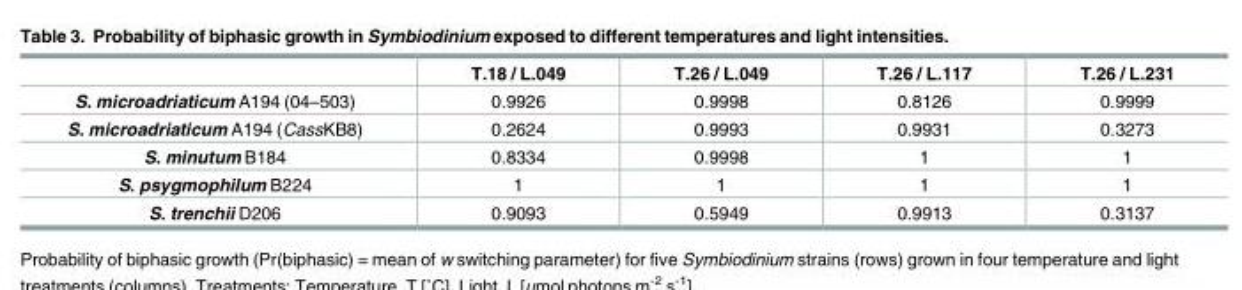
<table><thead><tr><td></td><td>T.18 / L.049</td><td>T.26 / L.049</td><td>T.26 / L.117</td><td>T.26 / L.231</td></tr></thead><tbody><tr><td>S. microadriaticum A194 (04–503)</td><td>0.9926</td><td>0.9998</td><td>0.8126</td><td>0.9999</td></tr><tr><td>S. microadriaticum A194 (CassKB8)</td><td>0.2624</td><td>0.9993</td><td>0.9931</td><td>0.3273</td></tr><tr><td>S. minutum B184</td><td>0.8334</td><td>0.9998</td><td>1</td><td>1</td></tr><tr><td>S. psygmophilum B224</td><td>1</td><td>1</td><td>1</td><td>1</td></tr><tr><td>S. trenchii D206</td><td>0.9093</td><td>0.5949</td><td>0.9913</td><td>0.3137</td></tr></tbody></table>